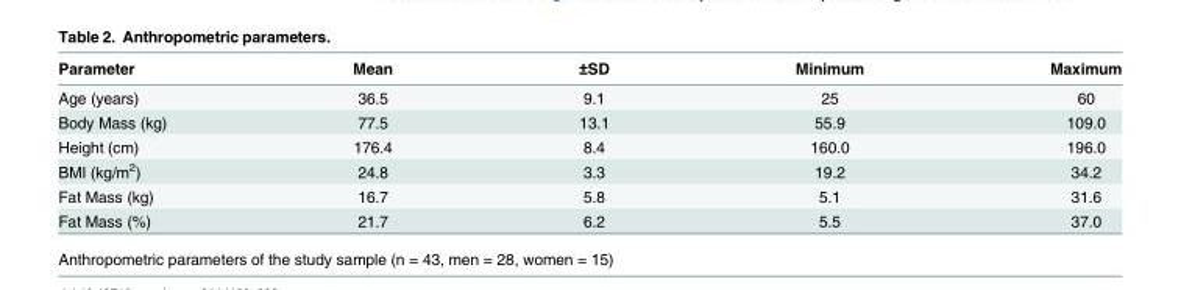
<table><thead><tr><td>Parameter</td><td>Mean</td><td>±SD</td><td>Minimum</td><td>Maximum</td></tr></thead><tbody><tr><td>Age (years)</td><td>36.5</td><td>9.1</td><td>25</td><td>60</td></tr><tr><td>Body Mass (kg)</td><td>77.5</td><td>13.1</td><td>55.9</td><td>109.0</td></tr><tr><td>Height (cm)</td><td>176.4</td><td>8.4</td><td>160.0</td><td>196.0</td></tr><tr><td>BMI (kg/m<sup>2</sup>)</td><td>24.8</td><td>3.3</td><td>19.2</td><td>34.2</td></tr><tr><td>Fat Mass (kg)</td><td>16.7</td><td>5.8</td><td>5.1</td><td>31.6</td></tr><tr><td>Fat Mass (%)</td><td>21.7</td><td>6.2</td><td>5.5</td><td>37.0</td></tr></tbody></table>